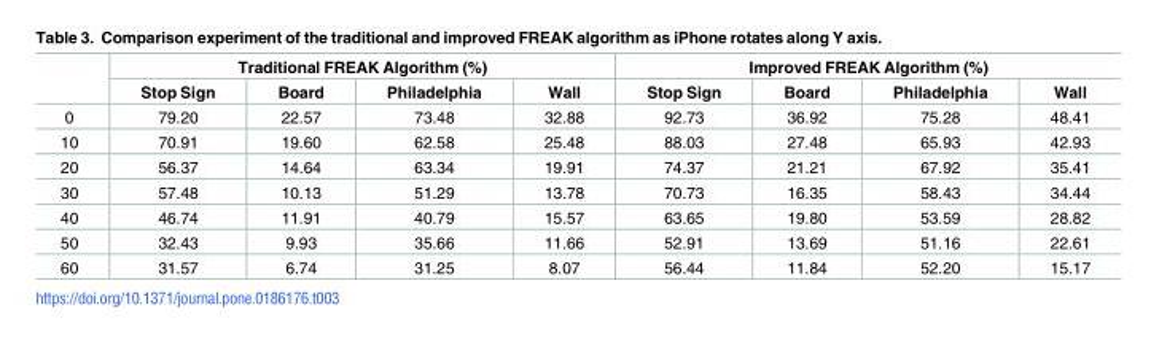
<table><thead><tr><td rowspan="2"></td><td colspan="4">Traditional FREAK Algorithm (%)</td><td colspan="4">Improved FREAK Algorithm (%)</td></tr><tr><td>Stop Sign</td><td>Board</td><td>Philadelphia</td><td>Wall</td><td>Stop Sign</td><td>Board</td><td>Philadelphia</td><td>Wall</td></tr></thead><tbody><tr><td>0</td><td>79.20</td><td>22.57</td><td>73.48</td><td>32.88</td><td>92.73</td><td>36.92</td><td>75.28</td><td>48.41</td></tr><tr><td>10</td><td>70.91</td><td>19.60</td><td>62.58</td><td>25.48</td><td>88.03</td><td>27.48</td><td>65.93</td><td>42.93</td></tr><tr><td>20</td><td>56.37</td><td>14.64</td><td>63.34</td><td>19.91</td><td>74.37</td><td>21.21</td><td>67.92</td><td>35.41</td></tr><tr><td>30</td><td>57.48</td><td>10.13</td><td>51.29</td><td>13.78</td><td>70.73</td><td>16.35</td><td>58.43</td><td>34.44</td></tr><tr><td>40</td><td>46.74</td><td>11.91</td><td>40.79</td><td>15.57</td><td>63.65</td><td>19.80</td><td>53.59</td><td>28.82</td></tr><tr><td>50</td><td>32.43</td><td>9.93</td><td>35.66</td><td>11.66</td><td>52.91</td><td>13.69</td><td>51.16</td><td>22.61</td></tr><tr><td>60</td><td>31.57</td><td>6.74</td><td>31.25</td><td>8.07</td><td>56.44</td><td>11.84</td><td>52.20</td><td>15.17</td></tr></tbody></table>